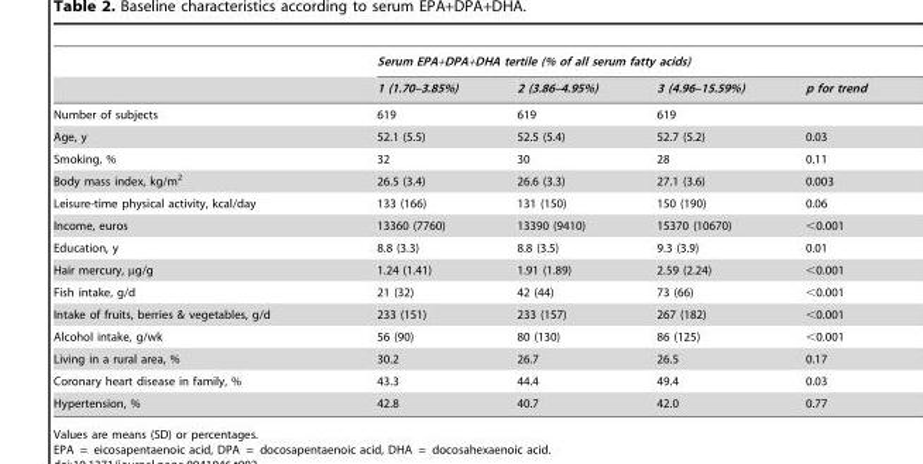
<table><thead><tr><td rowspan="2"></td><td colspan="4">Serum EPA+DPA+DHA tertile (% of all serum fatty acids)</td></tr><tr><td>1 (1.70–3.85%)</td><td>2 (3.86–4.95%)</td><td>3 (4.96–15.59%)</td><td>p for trend</td></tr></thead><tbody><tr><td>Number of subjects</td><td>619</td><td>619</td><td>619</td><td></td></tr><tr><td>Age, y</td><td>52.1 (5.5)</td><td>52.5 (5.4)</td><td>52.7 (5.2)</td><td>0.03</td></tr><tr><td>Smoking, %</td><td>32</td><td>30</td><td>28</td><td>0.11</td></tr><tr><td>Body mass index, kg/m<sup>2</sup></td><td>26.5 (3.4)</td><td>26.6 (3.3)</td><td>27.1 (3.6)</td><td>0.003</td></tr><tr><td>Leisure-time physical activity, kcal/day</td><td>133 (166)</td><td>131 (150)</td><td>150 (190)</td><td>0.06</td></tr><tr><td>Income, euros</td><td>13360 (7760)</td><td>13390 (9410)</td><td>15370 (10670)</td><td>&lt;0.001</td></tr><tr><td>Education, y</td><td>8.8 (3.3)</td><td>8.8 (3.5)</td><td>9.3 (3.9)</td><td>0.01</td></tr><tr><td>Hair mercury, µg/g</td><td>1.24 (1.41)</td><td>1.91 (1.89)</td><td>2.59 (2.24)</td><td>&lt;0.001</td></tr><tr><td>Fish intake, g/d</td><td>21 (32)</td><td>42 (44)</td><td>73 (66)</td><td>&lt;0.001</td></tr><tr><td>Intake of fruits, berries &amp; vegetables, g/d</td><td>233 (151)</td><td>233 (157)</td><td>267 (182)</td><td>&lt;0.001</td></tr><tr><td>Alcohol intake, g/wk</td><td>56 (90)</td><td>80 (130)</td><td>86 (125)</td><td>&lt;0.001</td></tr><tr><td>Living in a rural area, %</td><td>30.2</td><td>26.7</td><td>26.5</td><td>0.17</td></tr><tr><td>Coronary heart disease in family, %</td><td>43.3</td><td>44.4</td><td>49.4</td><td>0.03</td></tr><tr><td>Hypertension, %</td><td>42.8</td><td>40.7</td><td>42.0</td><td>0.77</td></tr></tbody></table>